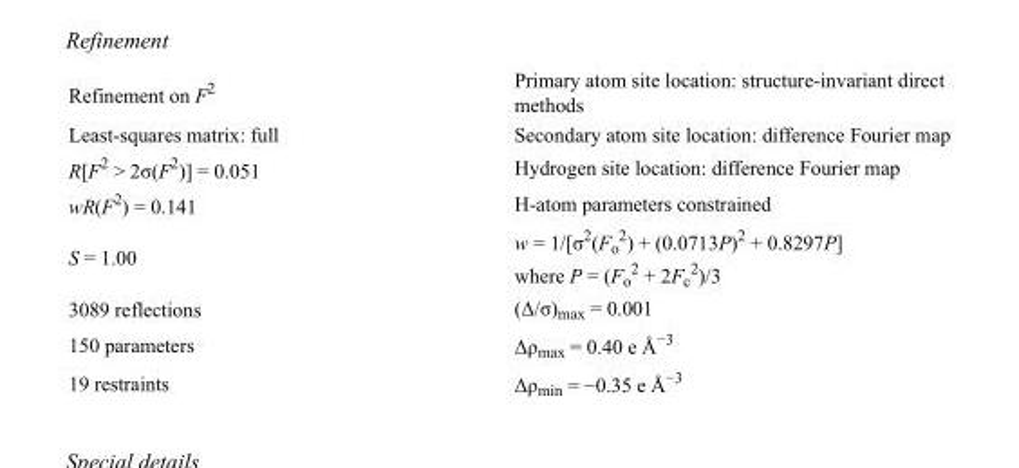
<table><tbody><tr><td>Refinement on F<sup>2</sup></td><td>Primary atom site location: structure-invariant direct methods</td></tr><tr><td>Least-squares matrix: full</td><td>Secondary atom site location: difference Fourier map</td></tr><tr><td>R[F<sup>2</sup> &gt; 2σ(F<sup>2</sup>)] = 0.051</td><td>Hydrogen site location: difference Fourier map</td></tr><tr><td>wR(F<sup>2</sup>) = 0.141</td><td>H-atom parameters constrained</td></tr><tr><td>S = 1.00</td><td>w = 1/[σ<sup>2</sup>(F<sub>o</sub> <sup>2</sup>) + (0.0713P)<sup>2</sup> + 0.8297P] where P = (F<sub>o</sub> <sup>2</sup> + 2F<sub>c</sub> <sup>2</sup>)/3</td></tr><tr><td>3089 reflections</td><td>(Δ/σ)<sub>max</sub> = 0.001</td></tr><tr><td>150 parameters</td><td>Δρ<sub>max</sub> = 0.40 e Å<sup>−3</sup></td></tr><tr><td>19 restraints</td><td>Δρ<sub>min</sub> = −0.35 e Å<sup>−3</sup></td></tr></tbody></table>